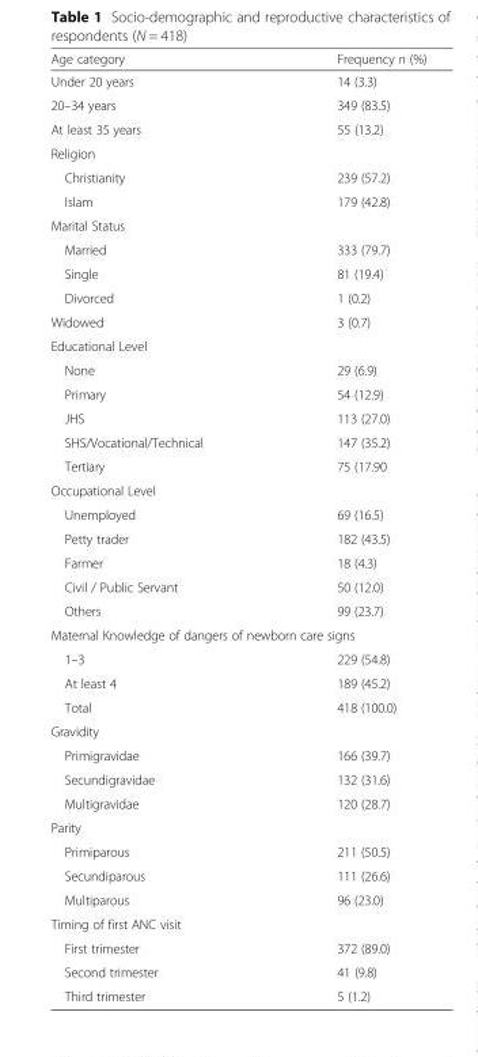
<table><thead><tr><td>Age category</td><td>Frequency n (%)</td></tr></thead><tbody><tr><td>Under 20 years</td><td>14 (3.3)</td></tr><tr><td>20–34 years</td><td>349 (83.5)</td></tr><tr><td>At least 35 years</td><td>55 (13.2)</td></tr><tr><td colspan="2">Religion</td></tr><tr><td>Christianity</td><td>239 (57.2)</td></tr><tr><td>Islam</td><td>179 (42.8)</td></tr><tr><td colspan="2">Marital Status</td></tr><tr><td>Married</td><td>333 (79.7)</td></tr><tr><td>Single</td><td>81 (19.4)</td></tr><tr><td>Divorced</td><td>1 (0.2)</td></tr><tr><td>Widowed</td><td>3 (0.7)</td></tr><tr><td colspan="2">Educational Level</td></tr><tr><td>None</td><td>29 (6.9)</td></tr><tr><td>Primary</td><td>54 (12.9)</td></tr><tr><td>JHS</td><td>113 (27.0)</td></tr><tr><td>SHS/Vocational/Technical</td><td>147 (35.2)</td></tr><tr><td>Tertiary</td><td>75 (17.90</td></tr><tr><td colspan="2">Occupational Level</td></tr><tr><td>Unemployed</td><td>69 (16.5)</td></tr><tr><td>Petty trader</td><td>182 (43.5)</td></tr><tr><td>Farmer</td><td>18 (4.3)</td></tr><tr><td>Civil / Public Servant</td><td>50 (12.0)</td></tr><tr><td>Others</td><td>99 (23.7)</td></tr><tr><td colspan="2">Maternal Knowledge of dangers of newborn care signs</td></tr><tr><td>1–3</td><td>229 (54.8)</td></tr><tr><td>At least 4</td><td>189 (45.2)</td></tr><tr><td>Total</td><td>418 (100.0)</td></tr><tr><td colspan="2">Gravidity</td></tr><tr><td>Primigravidae</td><td>166 (39.7)</td></tr><tr><td>Secundigravidae</td><td>132 (31.6)</td></tr><tr><td>Multigravidae</td><td>120 (28.7)</td></tr><tr><td colspan="2">Parity</td></tr><tr><td>Primiparous</td><td>211 (50.5)</td></tr><tr><td>Secundiparous</td><td>111 (26.6)</td></tr><tr><td>Multiparous</td><td>96 (23.0)</td></tr><tr><td colspan="2">Timing of first ANC visit</td></tr><tr><td>First trimester</td><td>372 (89.0)</td></tr><tr><td>Second trimester</td><td>41 (9.8)</td></tr><tr><td>Third trimester</td><td>5 (1.2)</td></tr></tbody></table>